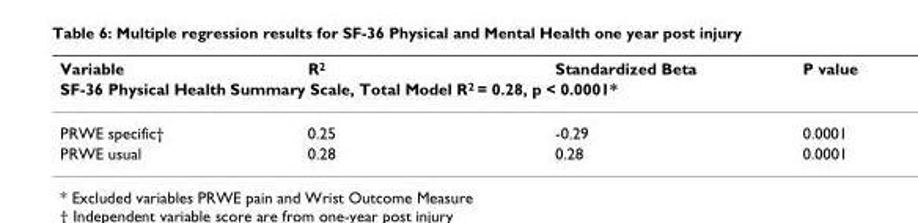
<table><thead><tr><td>Variable</td><td>R<sup>2</sup></td><td>Standardized Beta</td><td>P value</td></tr><tr><td colspan="4">SF-36 Physical Health Summary Scale, Total Model R<sup>2</sup> = 0.28, p &lt; 0.0001*</td></tr></thead><tbody><tr><td>PRWE specific†</td><td>0.25</td><td>-0.29</td><td>0.0001</td></tr><tr><td>PRWE usual</td><td>0.28</td><td>0.28</td><td>0.0001</td></tr></tbody></table>